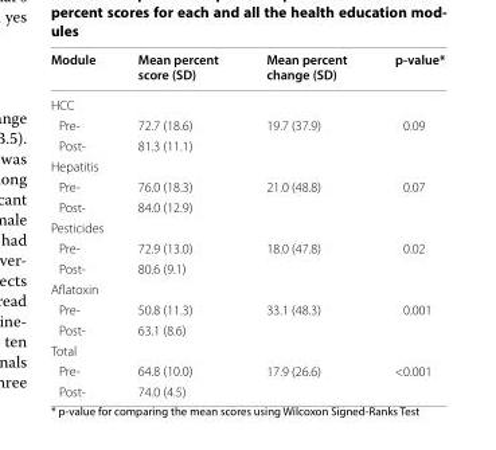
<table><thead><tr><td>Module</td><td>Mean percent score (SD)</td><td>Mean percent change (SD)</td><td>p‑value*</td></tr></thead><tbody><tr><td colspan="4">HCC</td></tr><tr><td>Pre‑</td><td>72.7 (18.6)</td><td rowspan="2">19.7 (37.9)</td><td rowspan="2">0.09</td></tr><tr><td>Post‑</td><td>81.3 (11.1)</td></tr><tr><td colspan="4">Hepatitis</td></tr><tr><td>Pre‑</td><td>76.0 (18.3)</td><td rowspan="2">21.0 (48.8)</td><td rowspan="2">0.07</td></tr><tr><td>Post‑</td><td>84.0 (12.9)</td></tr><tr><td colspan="4">Pesticides</td></tr><tr><td>Pre‑</td><td>72.9 (13.0)</td><td rowspan="2">18.0 (47.8)</td><td rowspan="2">0.02</td></tr><tr><td>Post‑</td><td>80.6 (9.1)</td></tr><tr><td colspan="4">Aflatoxin</td></tr><tr><td>Pre‑</td><td>50.8 (11.3)</td><td rowspan="2">33.1 (48.3)</td><td rowspan="2">0.001</td></tr><tr><td>Post‑</td><td>63.1 (8.6)</td></tr><tr><td colspan="4">Total</td></tr><tr><td>Pre‑</td><td>64.8 (10.0)</td><td rowspan="2">17.9 (26.6)</td><td rowspan="2">&lt;0.001</td></tr><tr><td>Post‑</td><td>74.0 (4.5)</td></tr></tbody></table>